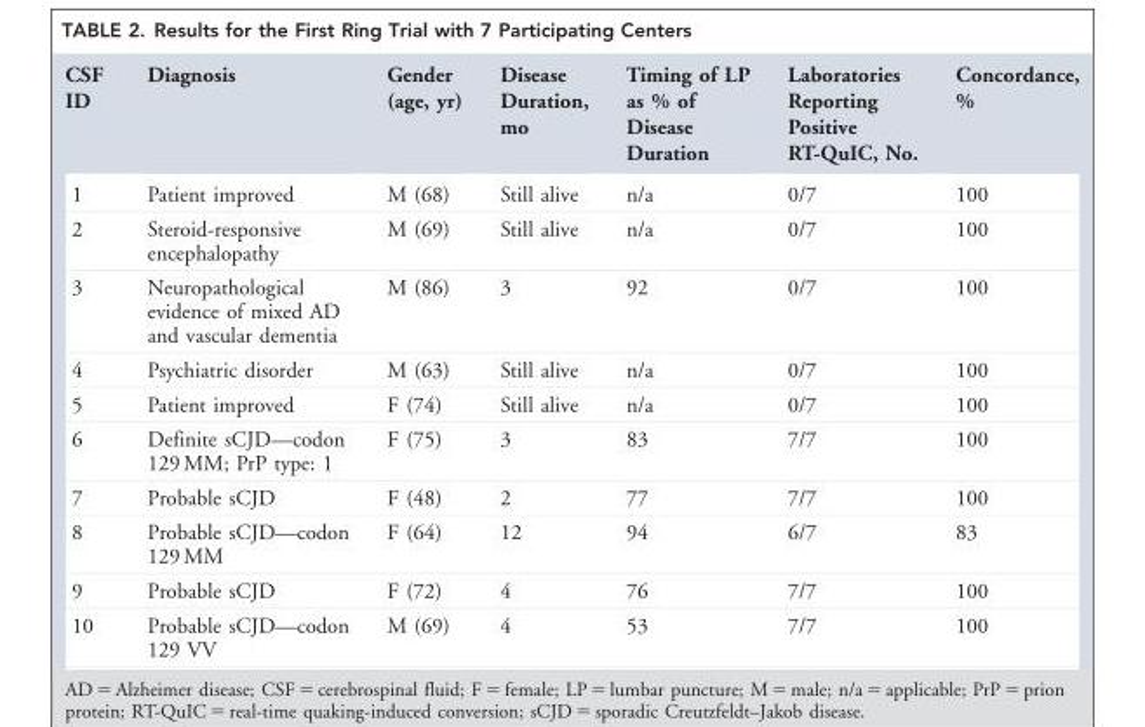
<table><thead><tr><td>CSF ID</td><td>Diagnosis</td><td>Gender (age, yr)</td><td>Disease Duration, mo</td><td>Timing of LP as % of Disease Duration</td><td>Laboratories Reporting Positive RT-QuIC, No.</td><td>Concordance, %</td></tr></thead><tbody><tr><td>1</td><td>Patient improved</td><td>M (68)</td><td>Still alive</td><td>n/a</td><td>0/7</td><td>100</td></tr><tr><td>2</td><td>Steroid-responsive encephalopathy</td><td>M (69)</td><td>Still alive</td><td>n/a</td><td>0/7</td><td>100</td></tr><tr><td>3</td><td>Neuropathological evidence of mixed AD and vascular dementia</td><td>M (86)</td><td>3</td><td>92</td><td>0/7</td><td>100</td></tr><tr><td>4</td><td>Psychiatric disorder</td><td>M (63)</td><td>Still alive</td><td>n/a</td><td>0/7</td><td>100</td></tr><tr><td>5</td><td>Patient improved</td><td>F (74)</td><td>Still alive</td><td>n/a</td><td>0/7</td><td>100</td></tr><tr><td>6</td><td>Definite sCJD—codon 129 MM; PrP type: 1</td><td>F (75)</td><td>3</td><td>83</td><td>7/7</td><td>100</td></tr><tr><td>7</td><td>Probable sCJD</td><td>F (48)</td><td>2</td><td>77</td><td>7/7</td><td>100</td></tr><tr><td>8</td><td>Probable sCJD—codon 129 MM</td><td>F (64)</td><td>12</td><td>94</td><td>6/7</td><td>83</td></tr><tr><td>9</td><td>Probable sCJD</td><td>F (72)</td><td>4</td><td>76</td><td>7/7</td><td>100</td></tr><tr><td>10</td><td>Probable sCJD—codon 129 VV</td><td>M (69)</td><td>4</td><td>53</td><td>7/7</td><td>100</td></tr></tbody></table>